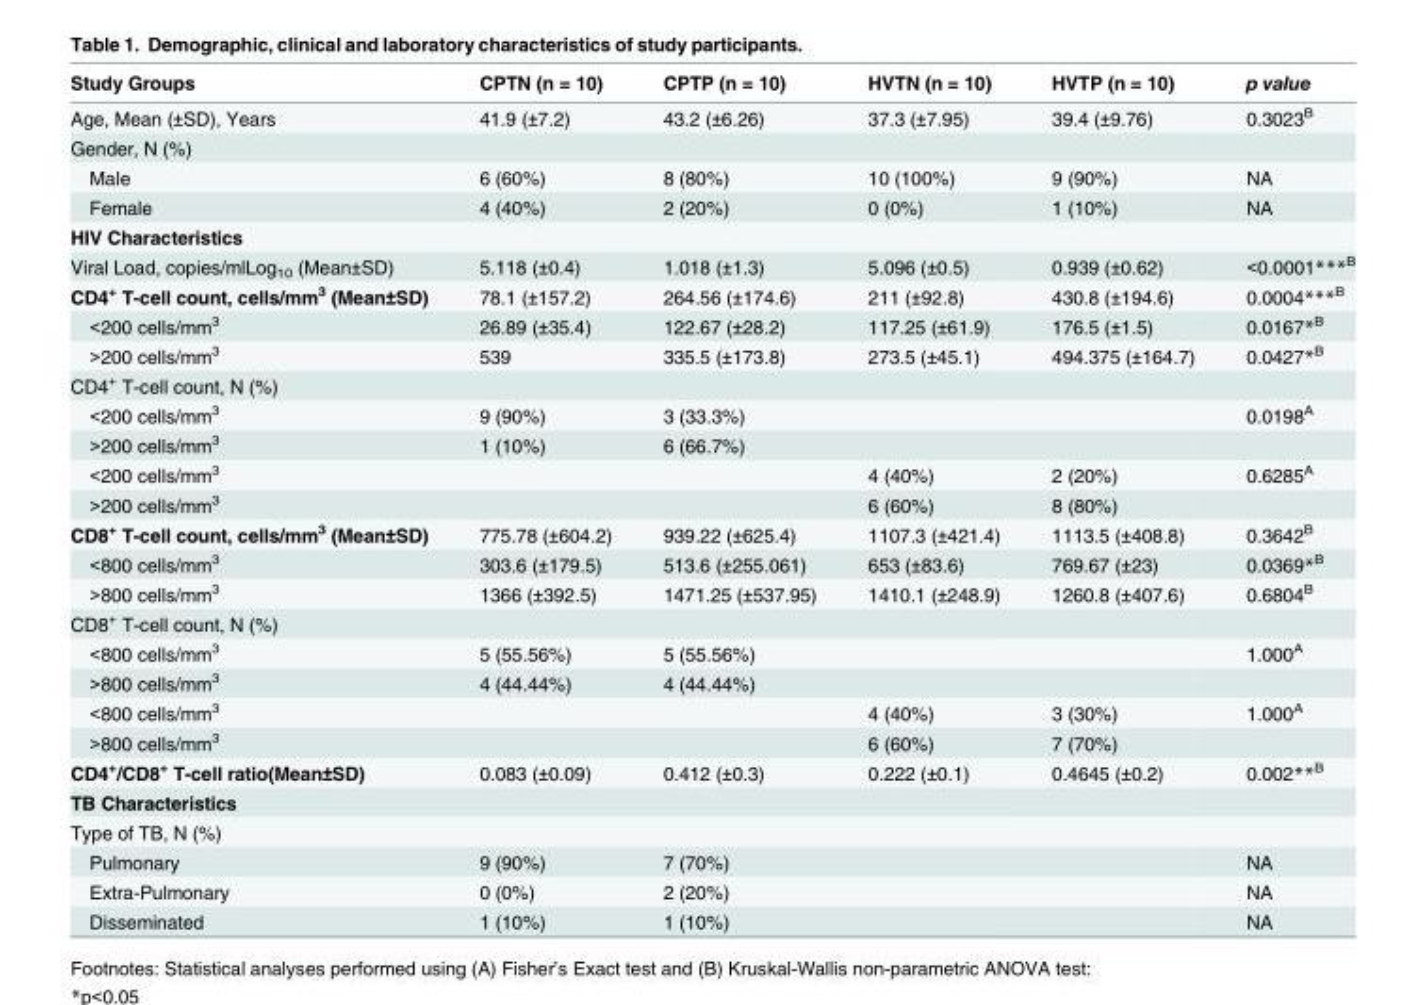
<table><thead><tr><td>Study Groups</td><td>CPTN (n = 10)</td><td>CPTP (n = 10)</td><td>HVTN (n = 10)</td><td>HVTP (n = 10)</td><td>p value</td></tr></thead><tbody><tr><td>Age, Mean (±SD), Years</td><td>41.9 (±7.2)</td><td>43.2 (±6.26)</td><td>37.3 (±7.95)</td><td>39.4 (±9.76)</td><td>0.3023<sup>B</sup></td></tr><tr><td colspan="6">Gender, N (%)</td></tr><tr><td>Male</td><td>6 (60%)</td><td>8 (80%)</td><td>10 (100%)</td><td>9 (90%)</td><td>NA</td></tr><tr><td>Female</td><td>4 (40%)</td><td>2 (20%)</td><td>0 (0%)</td><td>1 (10%)</td><td>NA</td></tr><tr><td colspan="6">HIV Characteristics</td></tr><tr><td>Viral Load, copies/mlLog<sub>10</sub> (Mean±SD)</td><td>5.118 (±0.4)</td><td>1.018 (±1.3)</td><td>5.096 (±0.5)</td><td>0.939 (±0.62)</td><td>&lt;0.0001***<sup>B</sup></td></tr><tr><td>CD4<sup>+</sup> T-cell count, cells/mm<sup>3</sup> (Mean±SD)</td><td>78.1 (±157.2)</td><td>264.56 (±174.6)</td><td>211 (±92.8)</td><td>430.8 (±194.6)</td><td>0.0004***<sup>B</sup></td></tr><tr><td>&lt;200 cells/mm<sup>3</sup></td><td>26.89 (±35.4)</td><td>122.67 (±28.2)</td><td>117.25 (±61.9)</td><td>176.5 (±1.5)</td><td>0.0167*<sup>B</sup></td></tr><tr><td>&gt;200 cells/mm<sup>3</sup></td><td>539</td><td>335.5 (±173.8)</td><td>273.5 (±45.1)</td><td>494.375 (±164.7)</td><td>0.0427*<sup>B</sup></td></tr><tr><td colspan="6">CD4<sup>+</sup> T-cell count, N (%)</td></tr><tr><td>&lt;200 cells/mm<sup>3</sup></td><td>9 (90%)</td><td>3 (33.3%)</td><td></td><td></td><td>0.0198<sup>A</sup></td></tr><tr><td>&gt;200 cells/mm<sup>3</sup></td><td>1 (10%)</td><td>6 (66.7%)</td><td></td><td></td><td></td></tr><tr><td>&lt;200 cells/mm<sup>3</sup></td><td></td><td></td><td>4 (40%)</td><td>2 (20%)</td><td>0.6285<sup>A</sup></td></tr><tr><td>&gt;200 cells/mm<sup>3</sup></td><td></td><td></td><td>6 (60%)</td><td>8 (80%)</td><td></td></tr><tr><td>CD8<sup>+</sup> T-cell count, cells/mm<sup>3</sup> (Mean±SD)</td><td>775.78 (±604.2)</td><td>939.22 (±625.4)</td><td>1107.3 (±421.4)</td><td>1113.5 (±408.8)</td><td>0.3642<sup>B</sup></td></tr><tr><td>&lt;800 cells/mm<sup>3</sup></td><td>303.6 (±179.5)</td><td>513.6 (±255.061)</td><td>653 (±83.6)</td><td>769.67 (±23)</td><td>0.0369*<sup>B</sup></td></tr><tr><td>&gt;800 cells/mm<sup>3</sup></td><td>1366 (±392.5)</td><td>1471.25 (±537.95)</td><td>1410.1 (±248.9)</td><td>1260.8 (±407.6)</td><td>0.6804<sup>B</sup></td></tr><tr><td colspan="6">CD8<sup>+</sup> T-cell count, N (%)</td></tr><tr><td>&lt;800 cells/mm<sup>3</sup></td><td>5 (55.56%)</td><td>5 (55.56%)</td><td></td><td></td><td>1.000<sup>A</sup></td></tr><tr><td>&gt;800 cells/mm<sup>3</sup></td><td>4 (44.44%)</td><td>4 (44.44%)</td><td></td><td></td><td></td></tr><tr><td>&lt;800 cells/mm<sup>3</sup></td><td></td><td></td><td>4 (40%)</td><td>3 (30%)</td><td>1.000<sup>A</sup></td></tr><tr><td>&gt;800 cells/mm<sup>3</sup></td><td></td><td></td><td>6 (60%)</td><td>7 (70%)</td><td></td></tr><tr><td>CD4<sup>+</sup>/CD8<sup>+</sup> T-cell ratio(Mean±SD)</td><td>0.083 (±0.09)</td><td>0.412 (±0.3)</td><td>0.222 (±0.1)</td><td>0.4645 (±0.2)</td><td>0.002**<sup>B</sup></td></tr><tr><td colspan="6">TB Characteristics</td></tr><tr><td colspan="6">Type of TB, N (%)</td></tr><tr><td>Pulmonary</td><td>9 (90%)</td><td>7 (70%)</td><td></td><td></td><td>NA</td></tr><tr><td>Extra-Pulmonary</td><td>0 (0%)</td><td>2 (20%)</td><td></td><td></td><td>NA</td></tr><tr><td>Disseminated</td><td>1 (10%)</td><td>1 (10%)</td><td></td><td></td><td>NA</td></tr></tbody></table>